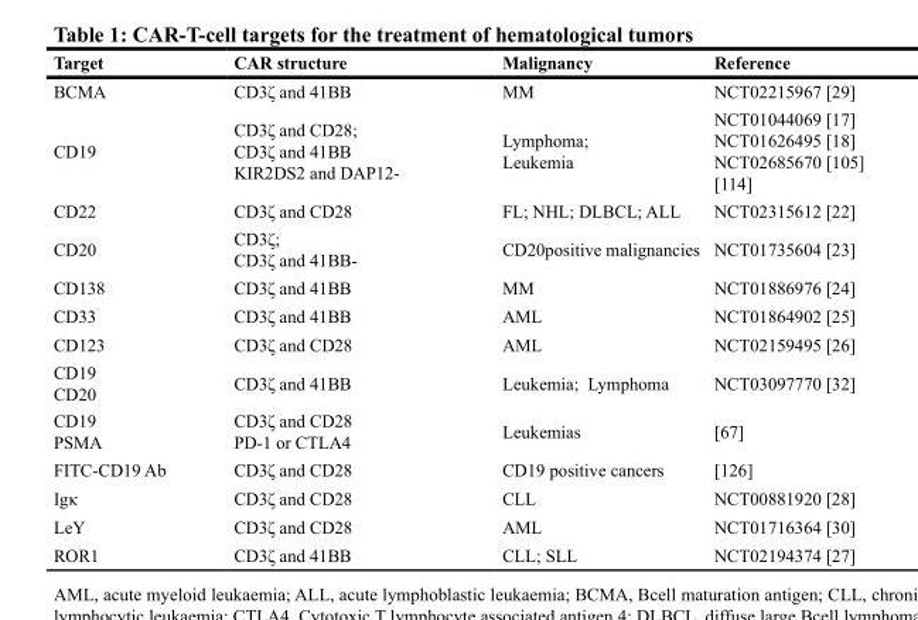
<table><thead><tr><td>Target</td><td>CAR structure</td><td>Malignancy</td><td>Reference</td></tr></thead><tbody><tr><td>BCMA</td><td>CD3ζ and 41BB</td><td>MM</td><td>NCT02215967 [29]</td></tr><tr><td>CD19</td><td>CD3ζ and CD28; CD3ζ and 41BB KIR2DS2 and DAP12-</td><td>Lymphoma; Leukemia</td><td>NCT01044069 [17] NCT01626495 [18] NCT02685670 [105] [114]</td></tr><tr><td>CD22</td><td>CD3ζ and CD28</td><td>FL; NHL; DLBCL; ALL</td><td>NCT02315612 [22]</td></tr><tr><td>CD20</td><td>CD3ζ; CD3ζ and 41BB-</td><td>CD20positive malignancies</td><td>NCT01735604 [23]</td></tr><tr><td>CD138</td><td>CD3ζ and 41BB</td><td>MM</td><td>NCT01886976 [24]</td></tr><tr><td>CD33</td><td>CD3ζ and 41BB</td><td>AML</td><td>NCT01864902 [25]</td></tr><tr><td>CD123</td><td>CD3ζ and CD28</td><td>AML</td><td>NCT02159495 [26]</td></tr><tr><td>CD19 CD20</td><td>CD3ζ and 41BB</td><td>Leukemia; Lymphoma</td><td>NCT03097770 [32]</td></tr><tr><td>CD19 PSMA</td><td>CD3ζ and CD28 PD-1 or CTLA4</td><td>Leukemias</td><td>[67]</td></tr><tr><td>FITC-CD19 Ab</td><td>CD3ζ and CD28</td><td>CD19 positive cancers</td><td>[126]</td></tr><tr><td>Igκ</td><td>CD3ζ and CD28</td><td>CLL</td><td>NCT00881920 [28]</td></tr><tr><td>LeY</td><td>CD3ζ and CD28</td><td>AML</td><td>NCT01716364 [30]</td></tr><tr><td>ROR1</td><td>CD3ζ and 41BB</td><td>CLL; SLL</td><td>NCT02194374 [27]</td></tr></tbody></table>